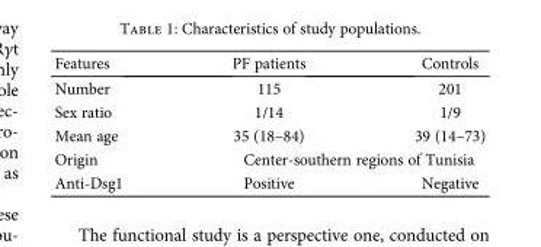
<table><thead><tr><td>Features</td><td>PF patients</td><td>Controls</td></tr></thead><tbody><tr><td>Number</td><td>115</td><td>201</td></tr><tr><td>Sex ratio</td><td>1/14</td><td>1/9</td></tr><tr><td>Mean age</td><td>35 (18–84)</td><td>39 (14–73)</td></tr><tr><td>Origin</td><td colspan="2">Center-southern regions of Tunisia</td></tr><tr><td>Anti-Dsg1</td><td>Positive</td><td>Negative</td></tr></tbody></table>